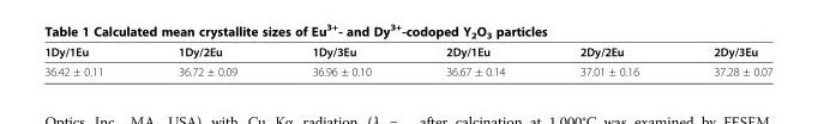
<table><thead><tr><td>1Dy/1Eu</td><td>1Dy/2Eu</td><td>1Dy/3Eu</td><td>2Dy/1Eu</td><td>2Dy/2Eu</td><td>2Dy/3Eu</td></tr></thead><tbody><tr><td>36.42 ± 0.11</td><td>36.72 ± 0.09</td><td>36.96 ± 0.10</td><td>36.67 ± 0.14</td><td>37.01 ± 0.16</td><td>37.28 ± 0.07</td></tr></tbody></table>